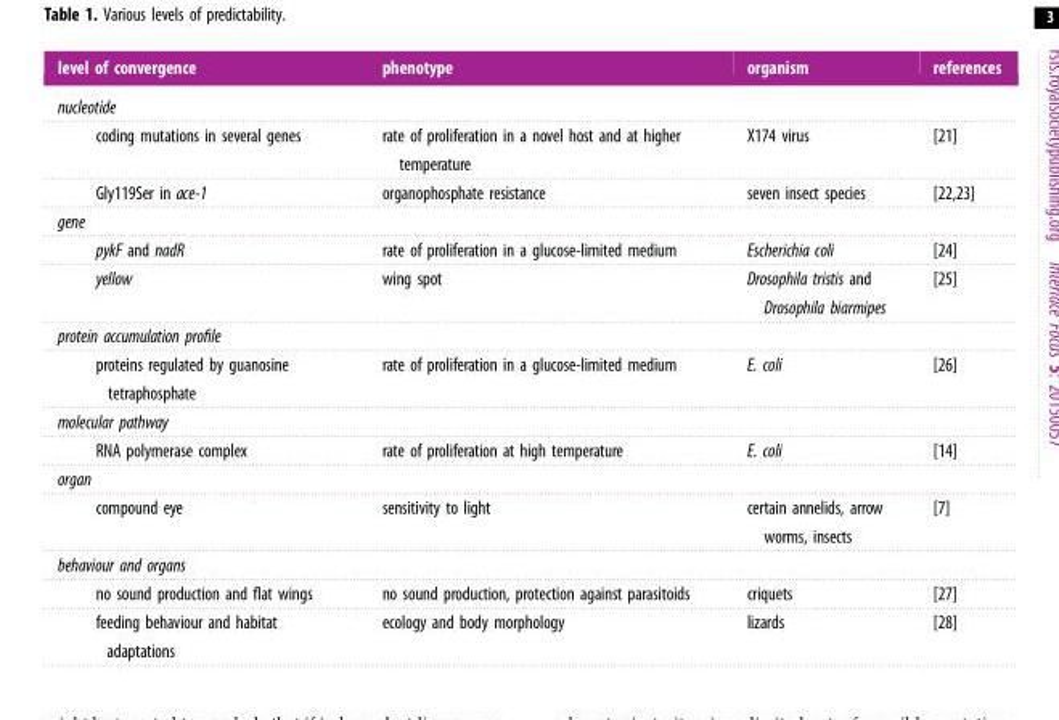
<table><thead><tr><td>level of convergence</td><td>phenotype</td><td>organism</td><td>references</td></tr></thead><tbody><tr><td colspan="4">nucleotide</td></tr><tr><td>coding mutations in several genes</td><td>rate of proliferation in a novel host and at higher temperature</td><td>X174 virus</td><td>[21]</td></tr><tr><td>Gly119Ser in ace-1</td><td>organophosphate resistance</td><td>seven insect species</td><td>[22,23]</td></tr><tr><td colspan="4">gene</td></tr><tr><td>pykF and nadR</td><td>rate of proliferation in a glucose-limited medium</td><td>Escherichia coli</td><td>[24]</td></tr><tr><td>yellow</td><td>wing spot</td><td>Drosophila tristis and Drosophila biarmipes</td><td>[25]</td></tr><tr><td colspan="4">protein accumulation profile</td></tr><tr><td>proteins regulated by guanosine tetraphosphate</td><td>rate of proliferation in a glucose-limited medium</td><td>E. coli</td><td>[26]</td></tr><tr><td colspan="4">molecular pathway</td></tr><tr><td>RNA polymerase complex</td><td>rate of proliferation at high temperature</td><td>E. coli</td><td>[14]</td></tr><tr><td colspan="4">organ</td></tr><tr><td>compound eye</td><td>sensitivity to light</td><td>certain annelids, arrow worms, insects</td><td>[7]</td></tr><tr><td colspan="4">behaviour and organs</td></tr><tr><td>no sound production and flat wings</td><td>no sound production, protection against parasitoids</td><td>criquets</td><td>[27]</td></tr><tr><td>feeding behaviour and habitat adaptations</td><td>ecology and body morphology</td><td>lizards</td><td>[28]</td></tr></tbody></table>